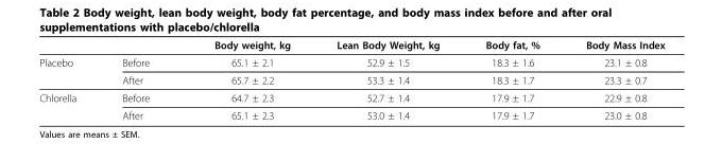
<table><thead><tr><td></td><td></td><td>Body weight, kg</td><td>Lean Body Weight, kg</td><td>Body fat, %</td><td>Body Mass Index</td></tr></thead><tbody><tr><td rowspan="2">Placebo</td><td>Before</td><td>65.1 ± 2.1</td><td>52.9 ± 1.5</td><td>18.3 ± 1.6</td><td>23.1 ± 0.8</td></tr><tr><td>After</td><td>65.7 ± 2.2</td><td>53.3 ± 1.4</td><td>18.3 ± 1.7</td><td>23.3 ± 0.7</td></tr><tr><td rowspan="2">Chlorella</td><td>Before</td><td>64.7 ± 2.3</td><td>52.7 ± 1.4</td><td>17.9 ± 1.7</td><td>22.9 ± 0.8</td></tr><tr><td>After</td><td>65.1 ± 2.3</td><td>53.0 ± 1.4</td><td>17.9 ± 1.7</td><td>23.0 ± 0.8</td></tr></tbody></table>